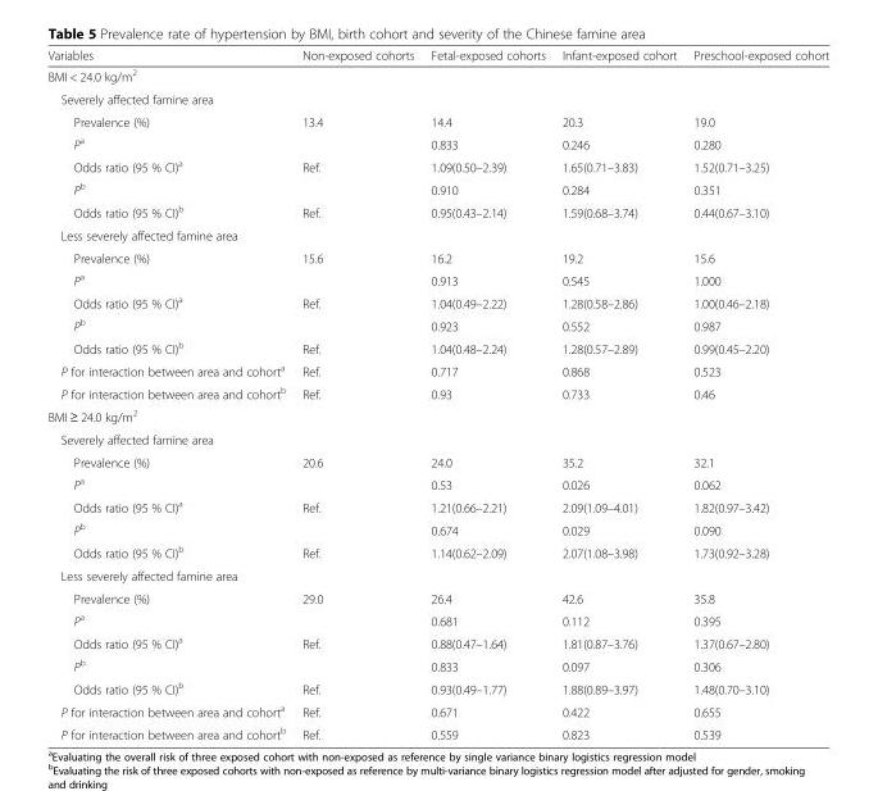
<table><thead><tr><td>Variables</td><td>Non-exposed cohorts</td><td>Fetal-exposed cohorts</td><td>Infant-exposed cohort</td><td>Preschool-exposed cohort</td></tr></thead><tbody><tr><td colspan="5">BMI &lt; 24.0 kg/m<sup>2</sup></td></tr><tr><td colspan="5">Severely affected famine area</td></tr><tr><td>Prevalence (%)</td><td>13.4</td><td>14.4</td><td>20.3</td><td>19.0</td></tr><tr><td>P<sup>a</sup></td><td></td><td>0.833</td><td>0.246</td><td>0.280</td></tr><tr><td>Odds ratio (95 % CI)<sup>a</sup></td><td>Ref.</td><td>1.09(0.50–2.39)</td><td>1.65(0.71–3.83)</td><td>1.52(0.71–3.25)</td></tr><tr><td>P<sup>b</sup></td><td></td><td>0.910</td><td>0.284</td><td>0.351</td></tr><tr><td>Odds ratio (95 % CI)<sup>b</sup></td><td>Ref.</td><td>0.95(0.43–2.14)</td><td>1.59(0.68–3.74)</td><td>0.44(0.67–3.10)</td></tr><tr><td colspan="5">Less severely affected famine area</td></tr><tr><td>Prevalence (%)</td><td>15.6</td><td>16.2</td><td>19.2</td><td>15.6</td></tr><tr><td>P<sup>a</sup></td><td></td><td>0.913</td><td>0.545</td><td>1.000</td></tr><tr><td>Odds ratio (95 % CI)<sup>a</sup></td><td>Ref.</td><td>1.04(0.49–2.22)</td><td>1.28(0.58–2.86)</td><td>1.00(0.46–2.18)</td></tr><tr><td>P<sup>b</sup></td><td></td><td>0.923</td><td>0.552</td><td>0.987</td></tr><tr><td>Odds ratio (95 % CI)<sup>b</sup></td><td>Ref.</td><td>1.04(0.48–2.24)</td><td>1.28(0.57–2.89)</td><td>0.99(0.45–2.20)</td></tr><tr><td>P for interaction between area and cohort<sup>a</sup></td><td>Ref.</td><td>0.717</td><td>0.868</td><td>0.523</td></tr><tr><td>P for interaction between area and cohort<sup>b</sup></td><td>Ref.</td><td>0.93</td><td>0.733</td><td>0.46</td></tr><tr><td colspan="5">BMI ≥ 24.0 kg/m<sup>2</sup></td></tr><tr><td colspan="5">Severely affected famine area</td></tr><tr><td>Prevalence (%)</td><td>20.6</td><td>24.0</td><td>35.2</td><td>32.1</td></tr><tr><td>P<sup>a</sup></td><td></td><td>0.53</td><td>0.026</td><td>0.062</td></tr><tr><td>Odds ratio (95 % CI)<sup>a</sup></td><td>Ref.</td><td>1.21(0.66–2.21)</td><td>2.09(1.09–4.01)</td><td>1.82(0.97–3.42)</td></tr><tr><td>P<sup>b</sup></td><td></td><td>0.674</td><td>0.029</td><td>0.090</td></tr><tr><td>Odds ratio (95 % CI)<sup>b</sup></td><td>Ref.</td><td>1.14(0.62–2.09)</td><td>2.07(1.08–3.98)</td><td>1.73(0.92–3.28)</td></tr><tr><td colspan="5">Less severely affected famine area</td></tr><tr><td>Prevalence (%)</td><td>29.0</td><td>26.4</td><td>42.6</td><td>35.8</td></tr><tr><td>P<sup>a</sup></td><td></td><td>0.681</td><td>0.112</td><td>0.395</td></tr><tr><td>Odds ratio (95 % CI)<sup>a</sup></td><td>Ref.</td><td>0.88(0.47–1.64)</td><td>1.81(0.87–3.76)</td><td>1.37(0.67–2.80)</td></tr><tr><td>P<sup>b</sup></td><td></td><td>0.833</td><td>0.097</td><td>0.306</td></tr><tr><td>Odds ratio (95 % CI)<sup>b</sup></td><td>Ref.</td><td>0.93(0.49–1.77)</td><td>1.88(0.89–3.97)</td><td>1.48(0.70–3.10)</td></tr><tr><td>P for interaction between area and cohort<sup>a</sup></td><td>Ref.</td><td>0.671</td><td>0.422</td><td>0.655</td></tr><tr><td>P for interaction between area and cohort<sup>b</sup></td><td>Ref.</td><td>0.559</td><td>0.823</td><td>0.539</td></tr></tbody></table>